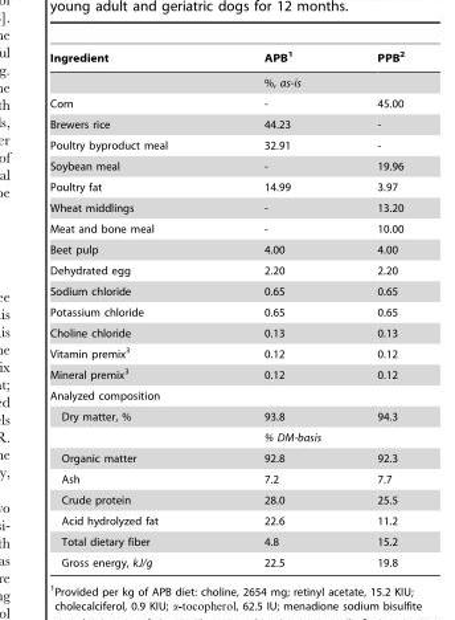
<table><thead><tr><td>Ingredient</td><td>APB<sup>1</sup></td><td>PPB<sup>2</sup></td></tr></thead><tbody><tr><td></td><td colspan="2">%, as-is</td></tr><tr><td>Corn</td><td>-</td><td>45.00</td></tr><tr><td>Brewers rice</td><td>44.23</td><td>-</td></tr><tr><td>Poultry byproduct meal</td><td>32.91</td><td>-</td></tr><tr><td>Soybean meal</td><td>-</td><td>19.96</td></tr><tr><td>Poultry fat</td><td>14.99</td><td>3.97</td></tr><tr><td>Wheat middlings</td><td>-</td><td>13.20</td></tr><tr><td>Meat and bone meal</td><td>-</td><td>10.00</td></tr><tr><td>Beet pulp</td><td>4.00</td><td>4.00</td></tr><tr><td>Dehydrated egg</td><td>2.20</td><td>2.20</td></tr><tr><td>Sodium chloride</td><td>0.65</td><td>0.65</td></tr><tr><td>Potassium chloride</td><td>0.65</td><td>0.65</td></tr><tr><td>Choline chloride</td><td>0.13</td><td>0.13</td></tr><tr><td>Vitamin premix<sup>3</sup></td><td>0.12</td><td>0.12</td></tr><tr><td>Mineral premix<sup>3</sup></td><td>0.12</td><td>0.12</td></tr><tr><td colspan="3">Analyzed composition</td></tr><tr><td rowspan="2">Dry matter, %</td><td>93.8</td><td>94.3</td></tr><tr><td colspan="2">% DM-basis</td></tr><tr><td>Organic matter</td><td>92.8</td><td>92.3</td></tr><tr><td>Ash</td><td>7.2</td><td>7.7</td></tr><tr><td>Crude protein</td><td>28.0</td><td>25.5</td></tr><tr><td>Acid hydrolyzed fat</td><td>22.6</td><td>11.2</td></tr><tr><td>Total dietary fiber</td><td>4.8</td><td>15.2</td></tr><tr><td>Gross energy, kJ/g</td><td>22.5</td><td>19.8</td></tr></tbody></table>